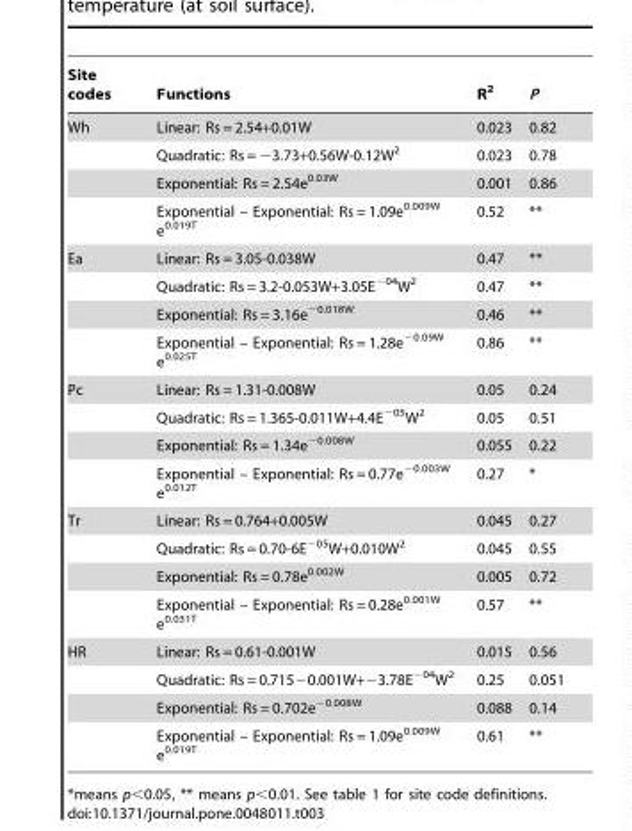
<table><thead><tr><td>Site codes</td><td>Functions</td><td>R<sup>2</sup></td><td>P</td></tr></thead><tbody><tr><td rowspan="4">Wh</td><td>Linear: Rs = 2.54+0.01W</td><td>0.023</td><td>0.82</td></tr><tr><td>Quadratic: Rs = −3.73+0.56W-0.12W<sup>2</sup></td><td>0.023</td><td>0.78</td></tr><tr><td>Exponential: Rs = 2.54e<sup>0.03W</sup></td><td>0.001</td><td>0.86</td></tr><tr><td>Exponential – Exponential: Rs = 1.09e<sup>0.009W</sup> e<sup>0.019T</sup></td><td>0.52</td><td>**</td></tr><tr><td rowspan="4">Ea</td><td>Linear: Rs = 3.05-0.038W</td><td>0.47</td><td>**</td></tr><tr><td>Quadratic: Rs = 3.2-0.053W+3.05E<sup>−04</sup>W<sup>2</sup></td><td>0.47</td><td>**</td></tr><tr><td>Exponential: Rs = 3.16e<sup>−0.018W</sup></td><td>0.46</td><td>**</td></tr><tr><td>Exponential – Exponential: Rs = 1.28e<sup>−0.09W</sup> e<sup>0.025T</sup></td><td>0.86</td><td>**</td></tr><tr><td rowspan="4">Pc</td><td>Linear: Rs = 1.31-0.008W</td><td>0.05</td><td>0.24</td></tr><tr><td>Quadratic: Rs = 1.365-0.011W+4.4E<sup>−05</sup>W<sup>2</sup></td><td>0.05</td><td>0.51</td></tr><tr><td>Exponential: Rs = 1.34e<sup>−0.008W</sup></td><td>0.055</td><td>0.22</td></tr><tr><td>Exponential – Exponential: Rs = 0.77e<sup>−0.003W</sup> e<sup>0.012T</sup></td><td>0.27</td><td>*</td></tr><tr><td rowspan="4">Tr</td><td>Linear: Rs = 0.764+0.005W</td><td>0.045</td><td>0.27</td></tr><tr><td>Quadratic: Rs = 0.70-6E<sup>−05</sup>W+0.010W<sup>2</sup></td><td>0.045</td><td>0.55</td></tr><tr><td>Exponential: Rs = 0.78e<sup>0.002W</sup></td><td>0.005</td><td>0.72</td></tr><tr><td>Exponential – Exponential: Rs = 0.28e<sup>0.001W</sup> e<sup>0.031T</sup></td><td>0.57</td><td>**</td></tr><tr><td rowspan="4">HR</td><td>Linear: Rs = 0.61-0.001W</td><td>0.015</td><td>0.56</td></tr><tr><td>Quadratic: Rs = 0.715−0.001W+−3.78E<sup>−04</sup>W<sup>2</sup></td><td>0.25</td><td>0.051</td></tr><tr><td>Exponential: Rs = 0.702e<sup>−0.008W</sup></td><td>0.088</td><td>0.14</td></tr><tr><td>Exponential – Exponential: Rs = 1.09e<sup>0.009W</sup> e<sup>0.019T</sup></td><td>0.61</td><td>**</td></tr></tbody></table>